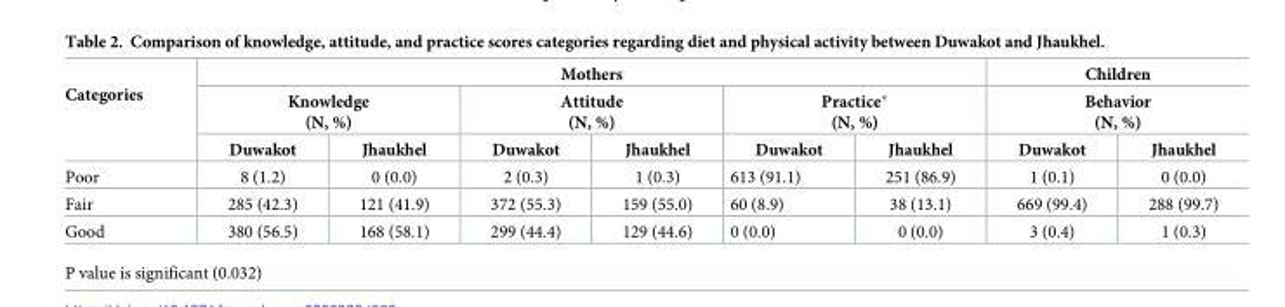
<table><thead><tr><td rowspan="3">Categories</td><td colspan="6">Mothers</td><td rowspan="2" colspan="2">Children Behavior (N, %)</td></tr><tr><td colspan="2">Knowledge (N, %)</td><td colspan="2">Attitude (N, %)</td><td colspan="2">Practice* (N, %)</td></tr><tr><td>Duwakot</td><td>Jhaukhel</td><td>Duwakot</td><td>Jhaukhel</td><td>Duwakot</td><td>Jhaukhel</td><td>Duwakot</td><td>Jhaukhel</td></tr></thead><tbody><tr><td>Poor</td><td>8 (1.2)</td><td>0 (0.0)</td><td>2 (0.3)</td><td>1 (0.3)</td><td>613 (91.1)</td><td>251 (86.9)</td><td>1 (0.1)</td><td>0 (0.0)</td></tr><tr><td>Fair</td><td>285 (42.3)</td><td>121 (41.9)</td><td>372 (55.3)</td><td>159 (55.0)</td><td>60 (8.9)</td><td>38 (13.1)</td><td>669 (99.4)</td><td>288 (99.7)</td></tr><tr><td>Good</td><td>380 (56.5)</td><td>168 (58.1)</td><td>299 (44.4)</td><td>129 (44.6)</td><td>0 (0.0)</td><td>0 (0.0)</td><td>3 (0.4)</td><td>1 (0.3)</td></tr></tbody></table>